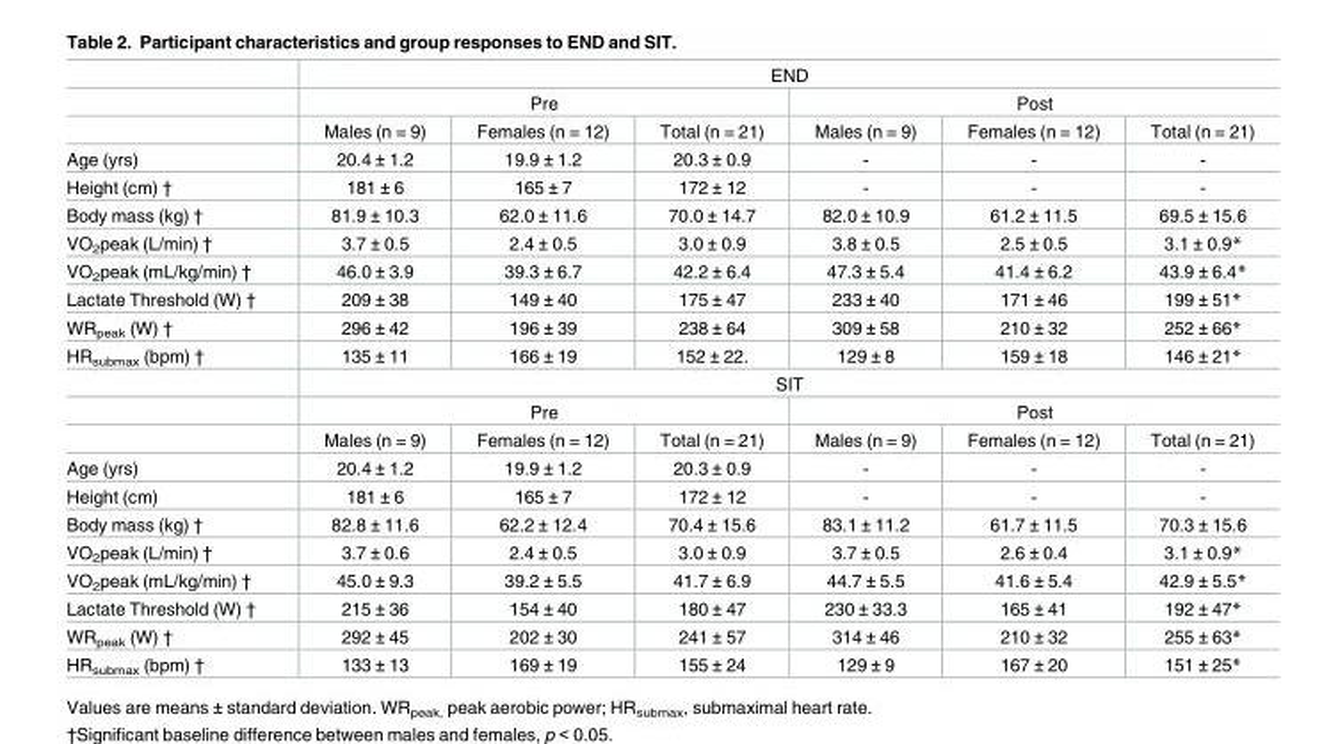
<table><thead><tr><td rowspan="3"></td><td colspan="6">END</td></tr><tr><td colspan="3">Pre</td><td colspan="3">Post</td></tr><tr><td>Males (n = 9)</td><td>Females (n = 12)</td><td>Total (n = 21)</td><td>Males (n = 9)</td><td>Females (n = 12)</td><td>Total (n = 21)</td></tr></thead><tbody><tr><td>Age (yrs)</td><td>20.4 ± 1.2</td><td>19.9 ± 1.2</td><td>20.3 ± 0.9</td><td>-</td><td>-</td><td>-</td></tr><tr><td>Height (cm) †</td><td>181 ± 6</td><td>165 ± 7</td><td>172 ± 12</td><td>-</td><td>-</td><td>-</td></tr><tr><td>Body mass (kg) †</td><td>81.9 ± 10.3</td><td>62.0 ± 11.6</td><td>70.0 ± 14.7</td><td>82.0 ± 10.9</td><td>61.2 ± 11.5</td><td>69.5 ± 15.6</td></tr><tr><td>VO<sub>2</sub>peak (L/min) †</td><td>3.7 ± 0.5</td><td>2.4 ± 0.5</td><td>3.0 ± 0.9</td><td>3.8 ± 0.5</td><td>2.5 ± 0.5</td><td>3.1 ± 0.9*</td></tr><tr><td>VO<sub>2</sub>peak (mL/kg/min) †</td><td>46.0 ± 3.9</td><td>39.3 ± 6.7</td><td>42.2 ± 6.4</td><td>47.3 ± 5.4</td><td>41.4 ± 6.2</td><td>43.9 ± 6.4*</td></tr><tr><td>Lactate Threshold (W) †</td><td>209 ± 38</td><td>149 ± 40</td><td>175 ± 47</td><td>233 ± 40</td><td>171 ± 46</td><td>199 ± 51*</td></tr><tr><td>WR<sub>peak</sub> (W) †</td><td>296 ± 42</td><td>196 ± 39</td><td>238 ± 64</td><td>309 ± 58</td><td>210 ± 32</td><td>252 ± 66*</td></tr><tr><td rowspan="4">HR<sub>submax</sub> (bpm) †</td><td>135 ± 11</td><td>166 ± 19</td><td>152 ± 22.</td><td>129 ± 8</td><td>159 ± 18</td><td>146 ± 21*</td></tr><tr><td colspan="6">SIT</td></tr><tr><td colspan="3">Pre</td><td colspan="3">Post</td></tr><tr><td>Males (n = 9)</td><td>Females (n = 12)</td><td>Total (n = 21)</td><td>Males (n = 9)</td><td>Females (n = 12)</td><td>Total (n = 21)</td></tr><tr><td>Age (yrs)</td><td>20.4 ± 1.2</td><td>19.9 ± 1.2</td><td>20.3 ± 0.9</td><td>-</td><td>-</td><td>-</td></tr><tr><td>Height (cm)</td><td>181 ± 6</td><td>165 ± 7</td><td>172 ± 12</td><td>-</td><td>-</td><td>-</td></tr><tr><td>Body mass (kg) †</td><td>82.8 ± 11.6</td><td>62.2 ± 12.4</td><td>70.4 ± 15.6</td><td>83.1 ± 11.2</td><td>61.7 ± 11.5</td><td>70.3 ± 15.6</td></tr><tr><td>VO<sub>2</sub>peak (L/min) †</td><td>3.7 ± 0.6</td><td>2.4 ± 0.5</td><td>3.0 ± 0.9</td><td>3.7 ± 0.5</td><td>2.6 ± 0.4</td><td>3.1 ± 0.9*</td></tr><tr><td>VO<sub>2</sub>peak (mL/kg/min) †</td><td>45.0 ± 9.3</td><td>39.2 ± 5.5</td><td>41.7 ± 6.9</td><td>44.7 ± 5.5</td><td>41.6 ± 5.4</td><td>42.9 ± 5.5*</td></tr><tr><td>Lactate Threshold (W) †</td><td>215 ± 36</td><td>154 ± 40</td><td>180 ± 47</td><td>230 ± 33.3</td><td>165 ± 41</td><td>192 ± 47*</td></tr><tr><td>WR<sub>peak</sub> (W) †</td><td>292 ± 45</td><td>202 ± 30</td><td>241 ± 57</td><td>314 ± 46</td><td>210 ± 32</td><td>255 ± 63*</td></tr><tr><td>HR<sub>submax</sub> (bpm) †</td><td>133 ± 13</td><td>169 ± 19</td><td>155 ± 24</td><td>129 ± 9</td><td>167 ± 20</td><td>151 ± 25*</td></tr></tbody></table>